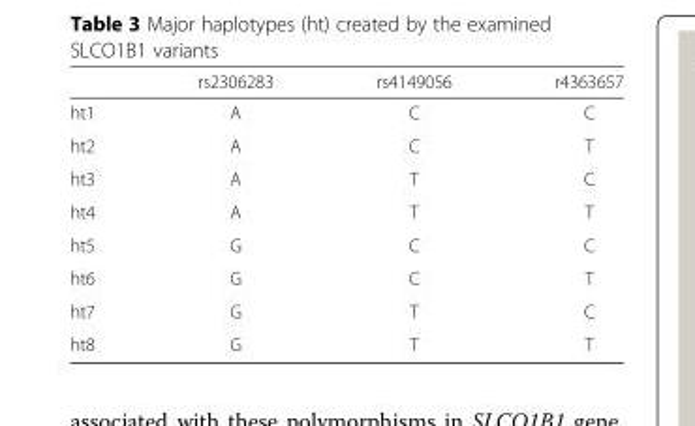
<table><thead><tr><td></td><td>rs2306283</td><td>rs4149056</td><td>r4363657</td></tr></thead><tbody><tr><td>ht1</td><td>A</td><td>C</td><td>C</td></tr><tr><td>ht2</td><td>A</td><td>C</td><td>T</td></tr><tr><td>ht3</td><td>A</td><td>T</td><td>C</td></tr><tr><td>ht4</td><td>A</td><td>T</td><td>T</td></tr><tr><td>ht5</td><td>G</td><td>C</td><td>C</td></tr><tr><td>ht6</td><td>G</td><td>C</td><td>T</td></tr><tr><td>ht7</td><td>G</td><td>T</td><td>C</td></tr><tr><td>ht8</td><td>G</td><td>T</td><td>T</td></tr></tbody></table>